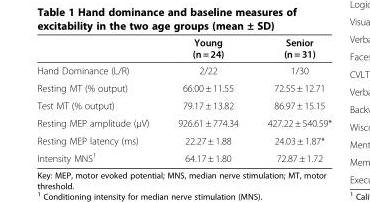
<table><thead><tr><td></td><td>Young (n = 24)</td><td>Senior (n = 31)</td></tr></thead><tbody><tr><td>Hand Dominance (L/R)</td><td>2/22</td><td>1/30</td></tr><tr><td>Resting MT (% output)</td><td>66.00 ± 11.55</td><td>72.55 ± 12.71</td></tr><tr><td>Test MT (% output)</td><td>79.17 ± 13.82</td><td>86.97 ± 15.15</td></tr><tr><td>Resting MEP amplitude (μV)</td><td>926.61 ± 774.34</td><td>427.22 ± 540.59*</td></tr><tr><td>Resting MEP latency (ms)</td><td>22.27 ± 1.88</td><td>24.03 ± 1.87*</td></tr><tr><td>Intensity MNS<sup>1</sup></td><td>64.17 ± 1.80</td><td>72.87 ± 1.72</td></tr></tbody></table>